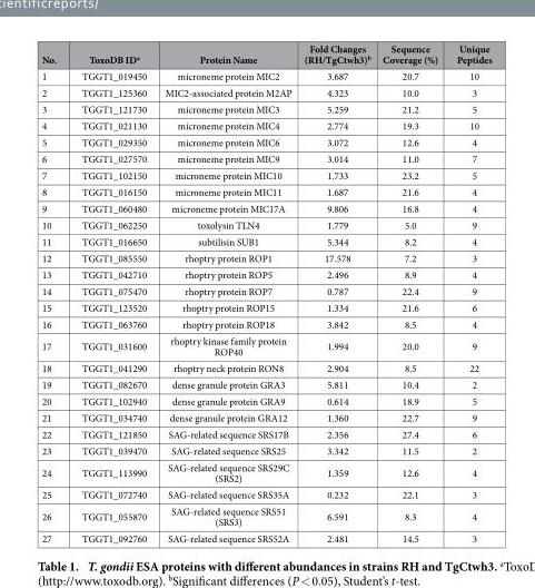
<table><thead><tr><td>No.</td><td>ToxoDB ID<sup>a</sup></td><td>Protein Name</td><td>Fold Changes (RH/TgCtwh3)<sup>b</sup></td><td>Sequence Coverage (%)</td><td>Unique Peptides</td></tr></thead><tbody><tr><td>1</td><td>TGGT1_019450</td><td>microneme protein MIC2</td><td>3.687</td><td>20.7</td><td>10</td></tr><tr><td>2</td><td>TGGT1_125360</td><td>MIC2-associated protein M2AP</td><td>4.323</td><td>10.0</td><td>3</td></tr><tr><td>3</td><td>TGGT1_121730</td><td>microneme protein MIC3</td><td>5.259</td><td>21.2</td><td>5</td></tr><tr><td>4</td><td>TGGT1_021130</td><td>microneme protein MIC4</td><td>2.774</td><td>19.3</td><td>10</td></tr><tr><td>5</td><td>TGGT1_029350</td><td>microneme protein MIC6</td><td>3.072</td><td>12.6</td><td>4</td></tr><tr><td>6</td><td>TGGT1_027570</td><td>microneme protein MIC9</td><td>3.014</td><td>11.0</td><td>7</td></tr><tr><td>7</td><td>TGGT1_102150</td><td>microneme protein MIC10</td><td>1.733</td><td>23.2</td><td>5</td></tr><tr><td>8</td><td>TGGT1_016150</td><td>microneme protein MIC11</td><td>1.687</td><td>21.6</td><td>4</td></tr><tr><td>9</td><td>TGGT1_060480</td><td>microneme protein MIC17A</td><td>9.806</td><td>16.8</td><td>4</td></tr><tr><td>10</td><td>TGGT1_062250</td><td>toxolysin TLN4</td><td>1.779</td><td>5.0</td><td>9</td></tr><tr><td>11</td><td>TGGT1_016650</td><td>subtilisin SUB1</td><td>5.344</td><td>8.2</td><td>4</td></tr><tr><td>12</td><td>TGGT1_085550</td><td>rhoptry protein ROP1</td><td>17.578</td><td>7.2</td><td>3</td></tr><tr><td>13</td><td>TGGT1_042710</td><td>rhoptry protein ROP5</td><td>2.496</td><td>8.9</td><td>4</td></tr><tr><td>14</td><td>TGGT1_075470</td><td>rhoptry protein ROP7</td><td>0.787</td><td>22.4</td><td>9</td></tr><tr><td>15</td><td>TGGT1_123520</td><td>rhoptry protein ROP15</td><td>1.334</td><td>21.6</td><td>6</td></tr><tr><td>16</td><td>TGGT1_063760</td><td>rhoptry protein ROP18</td><td>3.842</td><td>8.5</td><td>4</td></tr><tr><td>17</td><td>TGGT1_031600</td><td>rhoptry kinase family protein ROP40</td><td>1.994</td><td>20.0</td><td>9</td></tr><tr><td>18</td><td>TGGT1_041290</td><td>rhoptry neck protein RON8</td><td>2.904</td><td>8.5</td><td>22</td></tr><tr><td>19</td><td>TGGT1_082670</td><td>dense granule protein GRA3</td><td>5.811</td><td>10.4</td><td>2</td></tr><tr><td>20</td><td>TGGT1_102940</td><td>dense granule protein GRA9</td><td>0.614</td><td>18.9</td><td>5</td></tr><tr><td>21</td><td>TGGT1_034740</td><td>dense granule protein GRA12</td><td>1.360</td><td>22.7</td><td>9</td></tr><tr><td>22</td><td>TGGT1_121850</td><td>SAG-related sequence SRS17B</td><td>2.356</td><td>27.4</td><td>6</td></tr><tr><td>23</td><td>TGGT1_039470</td><td>SAG-related sequence SRS25</td><td>3.342</td><td>11.5</td><td>2</td></tr><tr><td>24</td><td>TGGT1_113990</td><td>SAG-related sequence SRS29C (SRS2)</td><td>1.359</td><td>12.6</td><td>4</td></tr><tr><td>25</td><td>TGGT1_072740</td><td>SAG-related sequence SRS35A</td><td>0.232</td><td>22.1</td><td>3</td></tr><tr><td>26</td><td>TGGT1_055870</td><td>SAG-related sequence SRS51 (SRS3)</td><td>6.591</td><td>8.3</td><td>4</td></tr><tr><td>27</td><td>TGGT1_092760</td><td>SAG-related sequence SRS52A</td><td>2.481</td><td>14.5</td><td>3</td></tr></tbody></table>